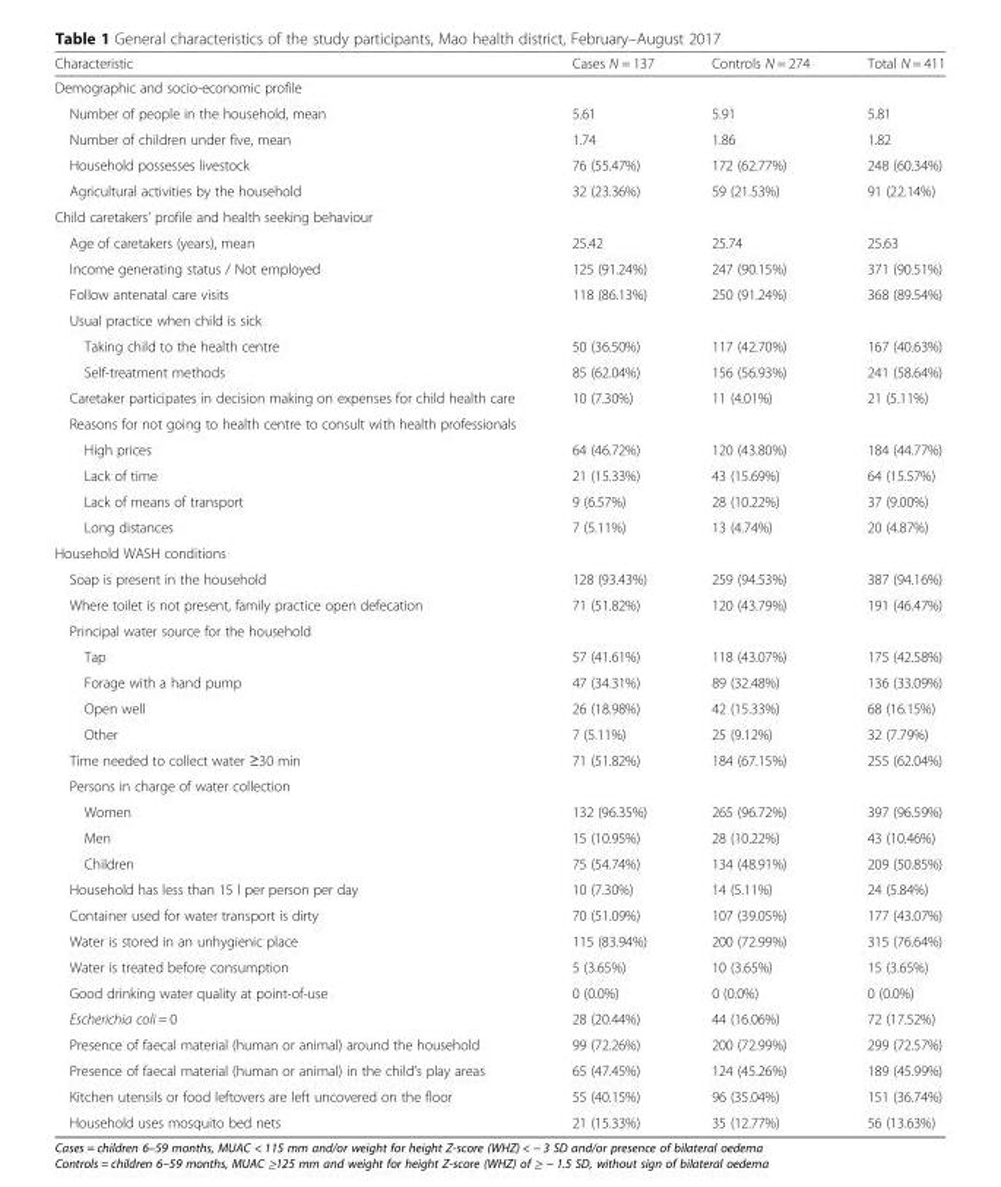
<table><thead><tr><td>Characteristic</td><td>Cases N = 137</td><td>Controls N = 274</td><td>Total N = 411</td></tr></thead><tbody><tr><td colspan="4">Demographic and socio-economic profile</td></tr><tr><td>Number of people in the household, mean</td><td>5.61</td><td>5.91</td><td>5.81</td></tr><tr><td>Number of children under five, mean</td><td>1.74</td><td>1.86</td><td>1.82</td></tr><tr><td>Household possesses livestock</td><td>76 (55.47%)</td><td>172 (62.77%)</td><td>248 (60.34%)</td></tr><tr><td>Agricultural activities by the household</td><td>32 (23.36%)</td><td>59 (21.53%)</td><td>91 (22.14%)</td></tr><tr><td colspan="4">Child caretakers’ profile and health seeking behaviour</td></tr><tr><td>Age of caretakers (years), mean</td><td>25.42</td><td>25.74</td><td>25.63</td></tr><tr><td>Income generating status / Not employed</td><td>125 (91.24%)</td><td>247 (90.15%)</td><td>371 (90.51%)</td></tr><tr><td>Follow antenatal care visits</td><td>118 (86.13%)</td><td>250 (91.24%)</td><td>368 (89.54%)</td></tr><tr><td colspan="4">Usual practice when child is sick</td></tr><tr><td>Taking child to the health centre</td><td>50 (36.50%)</td><td>117 (42.70%)</td><td>167 (40.63%)</td></tr><tr><td>Self-treatment methods</td><td>85 (62.04%)</td><td>156 (56.93%)</td><td>241 (58.64%)</td></tr><tr><td>Caretaker participates in decision making on expenses for child health care</td><td>10 (7.30%)</td><td>11 (4.01%)</td><td>21 (5.11%)</td></tr><tr><td colspan="4">Reasons for not going to health centre to consult with health professionals</td></tr><tr><td>High prices</td><td>64 (46.72%)</td><td>120 (43.80%)</td><td>184 (44.77%)</td></tr><tr><td>Lack of time</td><td>21 (15.33%)</td><td>43 (15.69%)</td><td>64 (15.57%)</td></tr><tr><td>Lack of means of transport</td><td>9 (6.57%)</td><td>28 (10.22%)</td><td>37 (9.00%)</td></tr><tr><td>Long distances</td><td>7 (5.11%)</td><td>13 (4.74%)</td><td>20 (4.87%)</td></tr><tr><td colspan="4">Household WASH conditions</td></tr><tr><td>Soap is present in the household</td><td>128 (93.43%)</td><td>259 (94.53%)</td><td>387 (94.16%)</td></tr><tr><td>Where toilet is not present, family practice open defecation</td><td>71 (51.82%)</td><td>120 (43.79%)</td><td>191 (46.47%)</td></tr><tr><td colspan="4">Principal water source for the household</td></tr><tr><td>Tap</td><td>57 (41.61%)</td><td>118 (43.07%)</td><td>175 (42.58%)</td></tr><tr><td>Forage with a hand pump</td><td>47 (34.31%)</td><td>89 (32.48%)</td><td>136 (33.09%)</td></tr><tr><td>Open well</td><td>26 (18.98%)</td><td>42 (15.33%)</td><td>68 (16.15%)</td></tr><tr><td>Other</td><td>7 (5.11%)</td><td>25 (9.12%)</td><td>32 (7.79%)</td></tr><tr><td>Time needed to collect water ≥30 min</td><td>71 (51.82%)</td><td>184 (67.15%)</td><td>255 (62.04%)</td></tr><tr><td colspan="4">Persons in charge of water collection</td></tr><tr><td>Women</td><td>132 (96.35%)</td><td>265 (96.72%)</td><td>397 (96.59%)</td></tr><tr><td>Men</td><td>15 (10.95%)</td><td>28 (10.22%)</td><td>43 (10.46%)</td></tr><tr><td>Children</td><td>75 (54.74%)</td><td>134 (48.91%)</td><td>209 (50.85%)</td></tr><tr><td>Household has less than 15 l per person per day</td><td>10 (7.30%)</td><td>14 (5.11%)</td><td>24 (5.84%)</td></tr><tr><td>Container used for water transport is dirty</td><td>70 (51.09%)</td><td>107 (39.05%)</td><td>177 (43.07%)</td></tr><tr><td>Water is stored in an unhygienic place</td><td>115 (83.94%)</td><td>200 (72.99%)</td><td>315 (76.64%)</td></tr><tr><td>Water is treated before consumption</td><td>5 (3.65%)</td><td>10 (3.65%)</td><td>15 (3.65%)</td></tr><tr><td>Good drinking water quality at point-of-use</td><td>0 (0.0%)</td><td>0 (0.0%)</td><td>0 (0.0%)</td></tr><tr><td>Escherichia coli = 0</td><td>28 (20.44%)</td><td>44 (16.06%)</td><td>72 (17.52%)</td></tr><tr><td>Presence of faecal material (human or animal) around the household</td><td>99 (72.26%)</td><td>200 (72.99%)</td><td>299 (72.57%)</td></tr><tr><td>Presence of faecal material (human or animal) in the child’s play areas</td><td>65 (47.45%)</td><td>124 (45.26%)</td><td>189 (45.99%)</td></tr><tr><td>Kitchen utensils or food leftovers are left uncovered on the floor</td><td>55 (40.15%)</td><td>96 (35.04%)</td><td>151 (36.74%)</td></tr><tr><td>Household uses mosquito bed nets</td><td>21 (15.33%)</td><td>35 (12.77%)</td><td>56 (13.63%)</td></tr></tbody></table>